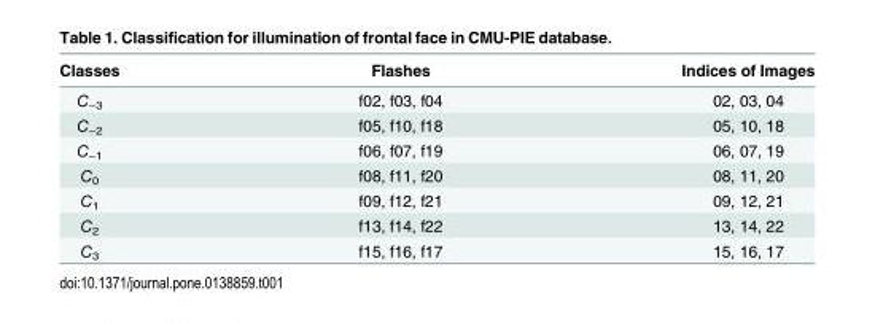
<table><thead><tr><td>Classes</td><td>Flashes</td><td>Indices of Images</td></tr></thead><tbody><tr><td>C<sub>−3</sub></td><td>f02, f03, f04</td><td>02, 03, 04</td></tr><tr><td>C<sub>−2</sub></td><td>f05, f10, f18</td><td>05, 10, 18</td></tr><tr><td>C<sub>−1</sub></td><td>f06, f07, f19</td><td>06, 07, 19</td></tr><tr><td>C<sub>0</sub></td><td>f08, f11, f20</td><td>08, 11, 20</td></tr><tr><td>C<sub>1</sub></td><td>f09, f12, f21</td><td>09, 12, 21</td></tr><tr><td>C<sub>2</sub></td><td>f13, f14, f22</td><td>13, 14, 22</td></tr><tr><td>C<sub>3</sub></td><td>f15, f16, f17</td><td>15, 16, 17</td></tr></tbody></table>